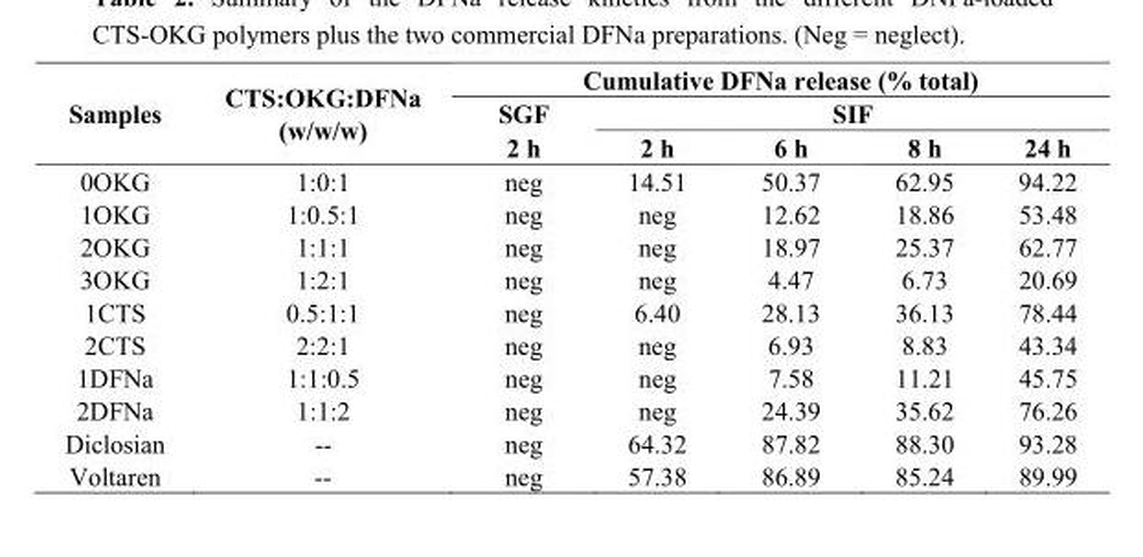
<table><thead><tr><td rowspan="3">Samples</td><td rowspan="3">CTS:OKG:DFNa (w/w/w)</td><td colspan="5">Cumulative DFNa release (% total)</td></tr><tr><td rowspan="2">SGF 2 h</td><td colspan="4">SIF</td></tr><tr><td>2 h</td><td>6 h</td><td>8 h</td><td>24 h</td></tr></thead><tbody><tr><td>0OKG</td><td>1:0:1</td><td>neg</td><td>14.51</td><td>50.37</td><td>62.95</td><td>94.22</td></tr><tr><td>1OKG</td><td>1:0.5:1</td><td>neg</td><td>neg</td><td>12.62</td><td>18.86</td><td>53.48</td></tr><tr><td>2OKG</td><td>1:1:1</td><td>neg</td><td>neg</td><td>18.97</td><td>25.37</td><td>62.77</td></tr><tr><td>3OKG</td><td>1:2:1</td><td>neg</td><td>neg</td><td>4.47</td><td>6.73</td><td>20.69</td></tr><tr><td>1CTS</td><td>0.5:1:1</td><td>neg</td><td>6.40</td><td>28.13</td><td>36.13</td><td>78.44</td></tr><tr><td>2CTS</td><td>2:2:1</td><td>neg</td><td>neg</td><td>6.93</td><td>8.83</td><td>43.34</td></tr><tr><td>1DFNa</td><td>1:1:0.5</td><td>neg</td><td>neg</td><td>7.58</td><td>11.21</td><td>45.75</td></tr><tr><td>2DFNa</td><td>1:1:2</td><td>neg</td><td>neg</td><td>24.39</td><td>35.62</td><td>76.26</td></tr><tr><td>Diclosian</td><td>--</td><td>neg</td><td>64.32</td><td>87.82</td><td>88.30</td><td>93.28</td></tr><tr><td>Voltaren</td><td>--</td><td>neg</td><td>57.38</td><td>86.89</td><td>85.24</td><td>89.99</td></tr></tbody></table>